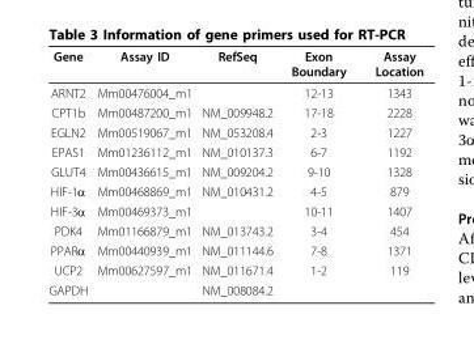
<table><thead><tr><td>Gene</td><td>Assay ID</td><td>RefSeq</td><td>Exon Boundary</td><td>Assay Location</td></tr></thead><tbody><tr><td>ARNT2</td><td>Mm00476004_m1</td><td></td><td>12-13</td><td>1343</td></tr><tr><td>CPT1b</td><td>Mm00487200_m1</td><td>NM_009948.2</td><td>17-18</td><td>2228</td></tr><tr><td>EGLN2</td><td>Mm00519067_m1</td><td>NM_053208.4</td><td>2-3</td><td>1227</td></tr><tr><td>EPAS1</td><td>Mm01236112_m1</td><td>NM_010137.3</td><td>6-7</td><td>1192</td></tr><tr><td>GLUT4</td><td>Mm00436615_m1</td><td>NM_009204.2</td><td>9-10</td><td>1328</td></tr><tr><td>HIF-1α</td><td>Mm00468869_m1</td><td>NM_010431.2</td><td>4-5</td><td>879</td></tr><tr><td>HIF-3α</td><td>Mm00469373_m1</td><td></td><td>10-11</td><td>1407</td></tr><tr><td>PDK4</td><td>Mm01166879_m1</td><td>NM_013743.2</td><td>3-4</td><td>454</td></tr><tr><td>PPARα</td><td>Mm00440939_m1</td><td>NM_011144.6</td><td>7-8</td><td>1371</td></tr><tr><td>UCP2</td><td>Mm00627597_m1</td><td>NM_011671.4</td><td>1-2</td><td>119</td></tr><tr><td>GAPDH</td><td></td><td>NM_008084.2</td><td></td><td></td></tr></tbody></table>